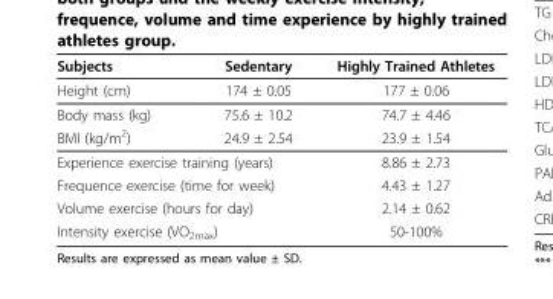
<table><thead><tr><td>Subjects</td><td>Sedentary</td><td>Highly Trained Athletes</td></tr></thead><tbody><tr><td>Height (cm)</td><td>174 ± 0.05</td><td>177 ± 0.06</td></tr><tr><td>Body mass (kg)</td><td>75.6 ± 10.2</td><td>74.7 ± 4.46</td></tr><tr><td>BMI (kg/m<sup>2</sup>)</td><td>24.9 ± 2.54</td><td>23.9 ± 1.54</td></tr><tr><td colspan="2">Experience exercise training (years)</td><td>8.86 ± 2.73</td></tr><tr><td colspan="2">Frequence exercise (time for week)</td><td>4.43 ± 1.27</td></tr><tr><td colspan="2">Volume exercise (hours for day)</td><td>2.14 ± 0.62</td></tr><tr><td colspan="2">Intensity exercise (VO<sub>2max</sub>)</td><td>50-100%</td></tr></tbody></table>